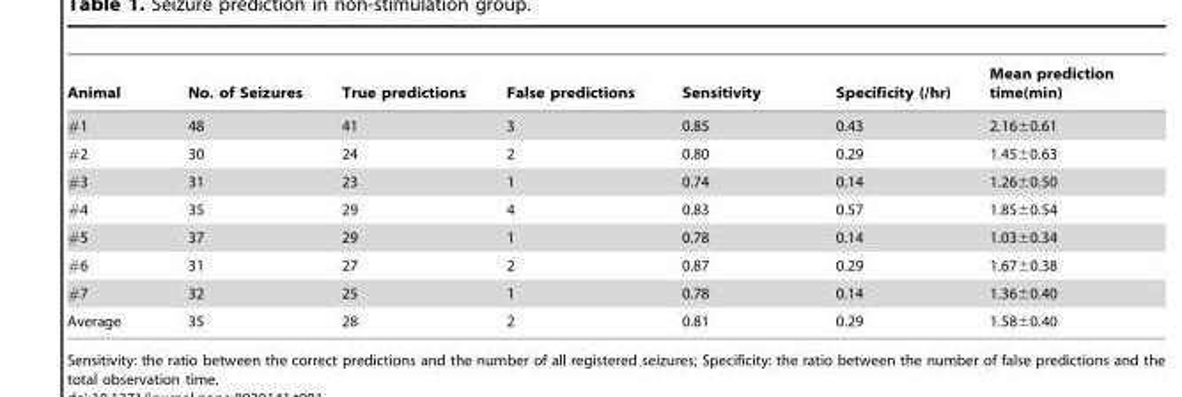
<table><thead><tr><td>Animal</td><td>No. of Seizures</td><td>True predictions</td><td>False predictions</td><td>Sensitivity</td><td>Specificity (/hr)</td><td>Mean prediction time(min)</td></tr></thead><tbody><tr><td>#1</td><td>48</td><td>41</td><td>3</td><td>0.85</td><td>0.43</td><td>2.16±0.61</td></tr><tr><td>#2</td><td>30</td><td>24</td><td>2</td><td>0.80</td><td>0.29</td><td>1.45±0.63</td></tr><tr><td>#3</td><td>31</td><td>23</td><td>1</td><td>0.74</td><td>0.14</td><td>1.26±0.50</td></tr><tr><td>#4</td><td>35</td><td>29</td><td>4</td><td>0.83</td><td>0.57</td><td>1.85±0.54</td></tr><tr><td>#5</td><td>37</td><td>29</td><td>1</td><td>0.78</td><td>0.14</td><td>1.03±0.34</td></tr><tr><td>#6</td><td>31</td><td>27</td><td>2</td><td>0.87</td><td>0.29</td><td>1.67±0.38</td></tr><tr><td>#7</td><td>32</td><td>25</td><td>1</td><td>0.78</td><td>0.14</td><td>1.36±0.40</td></tr><tr><td>Average</td><td>35</td><td>28</td><td>2</td><td>0.81</td><td>0.29</td><td>1.58±0.40</td></tr></tbody></table>